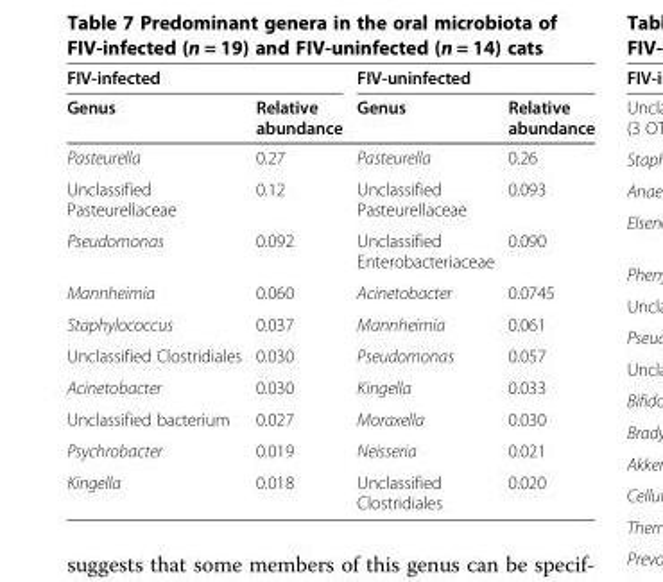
<table><thead><tr><td colspan="2">FIV-infected</td><td colspan="2">FIV-uninfected</td></tr><tr><td>Genus</td><td>Relative abundance</td><td>Genus</td><td>Relative abundance</td></tr></thead><tbody><tr><td>Pasteurella</td><td>0.27</td><td>Pasteurella</td><td>0.26</td></tr><tr><td>Unclassified Pasteurellaceae</td><td>0.12</td><td>Unclassified Pasteurellaceae</td><td>0.093</td></tr><tr><td>Pseudomonas</td><td>0.092</td><td>Unclassified Enterobacteriaceae</td><td>0.090</td></tr><tr><td>Mannheimia</td><td>0.060</td><td>Acinetobacter</td><td>0.0745</td></tr><tr><td>Staphylococcus</td><td>0.037</td><td>Mannheimia</td><td>0.061</td></tr><tr><td>Unclassified Clostridiales</td><td>0.030</td><td>Pseudomonas</td><td>0.057</td></tr><tr><td>Acinetobacter</td><td>0.030</td><td>Kingella</td><td>0.033</td></tr><tr><td>Unclassified bacterium</td><td>0.027</td><td>Moraxella</td><td>0.030</td></tr><tr><td>Psychrobacter</td><td>0.019</td><td>Neisseria</td><td>0.021</td></tr><tr><td>Kingella</td><td>0.018</td><td>Unclassified Clostridiales</td><td>0.020</td></tr></tbody></table>